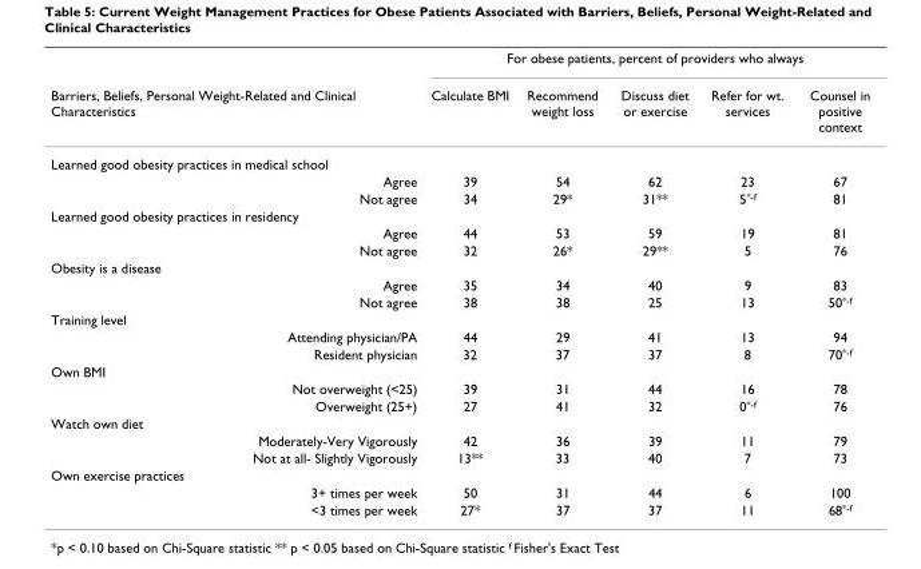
<table><thead><tr><td rowspan="2">Barriers, Beliefs, Personal Weight-Related and Clinical Characteristics</td><td colspan="5">For obese patients, percent of providers who always</td></tr><tr><td>Calculate BMI</td><td>Recommend weight loss</td><td>Discuss diet or exercise</td><td>Refer for wt. services</td><td>Counsel in positive context</td></tr></thead><tbody><tr><td colspan="6">Learned good obesity practices in medical school</td></tr><tr><td>Agree</td><td>39</td><td>54</td><td>62</td><td>23</td><td>67</td></tr><tr><td>Not agree</td><td>34</td><td>29*</td><td>31**</td><td>5<sup>*-f</sup></td><td>81</td></tr><tr><td colspan="6">Learned good obesity practices in residency</td></tr><tr><td>Agree</td><td>44</td><td>53</td><td>59</td><td>19</td><td>81</td></tr><tr><td>Not agree</td><td>32</td><td>26*</td><td>29**</td><td>5</td><td>76</td></tr><tr><td colspan="6">Obesity is a disease</td></tr><tr><td>Agree</td><td>35</td><td>34</td><td>40</td><td>9</td><td>83</td></tr><tr><td>Not agree</td><td>38</td><td>38</td><td>25</td><td>13</td><td>50<sup>*-f</sup></td></tr><tr><td colspan="6">Training level</td></tr><tr><td>Attending physician/PA</td><td>44</td><td>29</td><td>41</td><td>13</td><td>94</td></tr><tr><td>Resident physician</td><td>32</td><td>37</td><td>37</td><td>8</td><td>70<sup>*-f</sup></td></tr><tr><td colspan="6">Own BMI</td></tr><tr><td>Not overweight (&lt;25)</td><td>39</td><td>31</td><td>44</td><td>16</td><td>78</td></tr><tr><td>Overweight (25+)</td><td>27</td><td>41</td><td>32</td><td>0<sup>*-f</sup></td><td>76</td></tr><tr><td colspan="6">Watch own diet</td></tr><tr><td>Moderately-Very Vigorously</td><td>42</td><td>36</td><td>39</td><td>11</td><td>79</td></tr><tr><td>Not at all- Slightly Vigorously</td><td>13**</td><td>33</td><td>40</td><td>7</td><td>73</td></tr><tr><td colspan="6">Own exercise practices</td></tr><tr><td>3+ times per week</td><td>50</td><td>31</td><td>44</td><td>6</td><td>100</td></tr><tr><td>&lt;3 times per week</td><td>27*</td><td>37</td><td>37</td><td>11</td><td>68<sup>*-f</sup></td></tr></tbody></table>